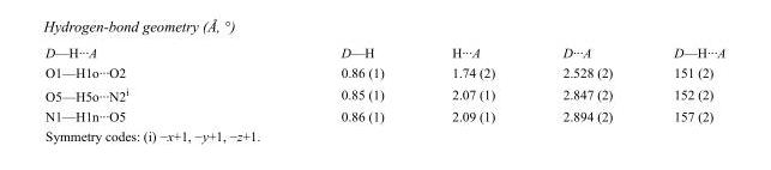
<table><tbody><tr><td>D—H···A</td><td>D—H</td><td>H···A</td><td>D···A</td><td>D—H···A</td></tr><tr><td>O1—H1o···O2</td><td>0.86 (1)</td><td>1.74 (2)</td><td>2.528 (2)</td><td>151 (2)</td></tr><tr><td>O5—H5o···N2<sup>i</sup></td><td>0.85 (1)</td><td>2.07 (1)</td><td>2.847 (2)</td><td>152 (2)</td></tr><tr><td>N1—H1n···O5</td><td>0.86 (1)</td><td>2.09 (1)</td><td>2.894 (2)</td><td>157 (2)</td></tr></tbody></table>